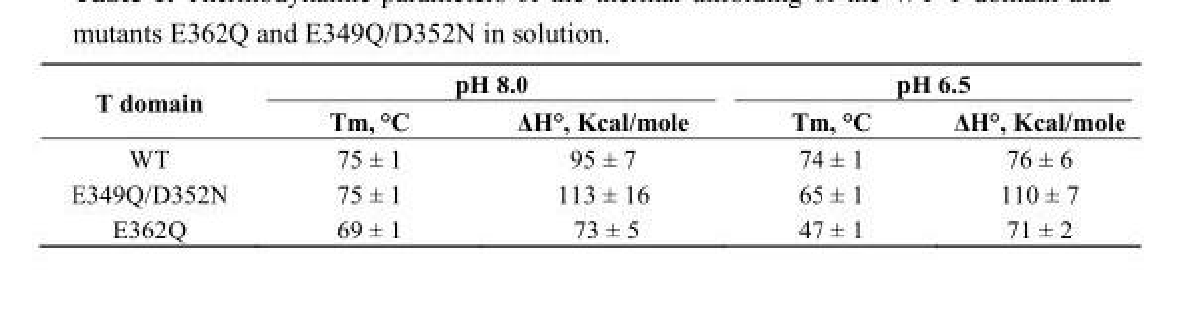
<table><thead><tr><td rowspan="2">T domain</td><td colspan="2">pH 8.0</td><td colspan="2">pH 6.5</td></tr><tr><td>Tm, °C</td><td>ΔH°, Kcal/mole</td><td>Tm, °C</td><td>ΔH°, Kcal/mole</td></tr></thead><tbody><tr><td>WT</td><td>75 ± 1</td><td>95 ± 7</td><td>74 ± 1</td><td>76 ± 6</td></tr><tr><td>E349Q/D352N</td><td>75 ± 1</td><td>113 ± 16</td><td>65 ± 1</td><td>110 ± 7</td></tr><tr><td>E362Q</td><td>69 ± 1</td><td>73 ± 5</td><td>47 ± 1</td><td>71 ± 2</td></tr></tbody></table>